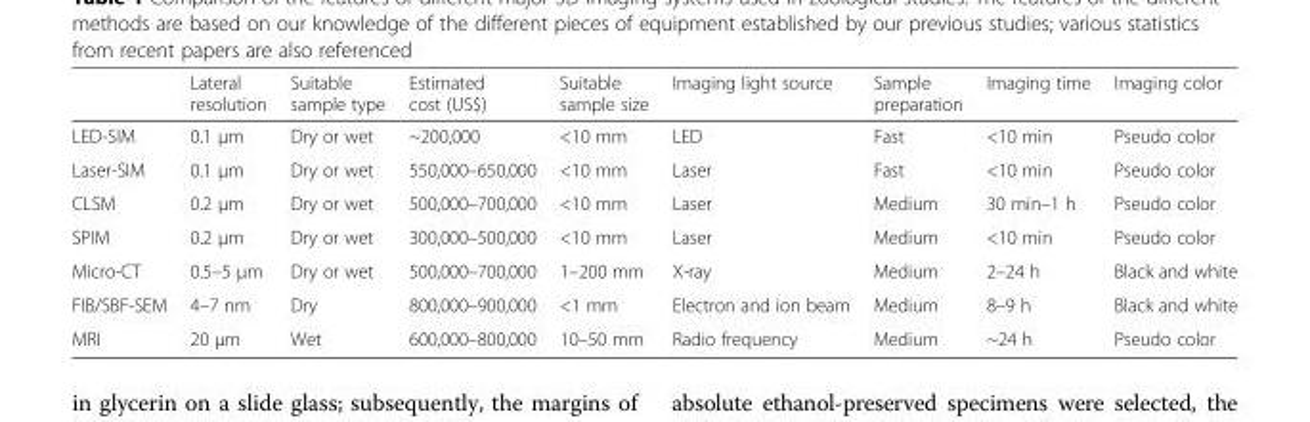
<table><thead><tr><td></td><td>Lateral resolution</td><td>Suitable sample type</td><td>Estimated cost (US$)</td><td>Suitable sample size</td><td>Imaging light source</td><td>Sample preparation</td><td>Imaging time</td><td>Imaging color</td></tr></thead><tbody><tr><td>LED-SIM</td><td>0.1 μm</td><td>Dry or wet</td><td>~200,000</td><td>&lt;10 mm</td><td>LED</td><td>Fast</td><td>&lt;10 min</td><td>Pseudo color</td></tr><tr><td>Laser-SIM</td><td>0.1 μm</td><td>Dry or wet</td><td>550,000–650,000</td><td>&lt;10 mm</td><td>Laser</td><td>Fast</td><td>&lt;10 min</td><td>Pseudo color</td></tr><tr><td>CLSM</td><td>0.2 μm</td><td>Dry or wet</td><td>500,000–700,000</td><td>&lt;10 mm</td><td>Laser</td><td>Medium</td><td>30 min–1 h</td><td>Pseudo color</td></tr><tr><td>SPIM</td><td>0.2 μm</td><td>Dry or wet</td><td>300,000–500,000</td><td>&lt;10 mm</td><td>Laser</td><td>Medium</td><td>&lt;10 min</td><td>Pseudo color</td></tr><tr><td>Micro-CT</td><td>0.5–5 μm</td><td>Dry or wet</td><td>500,000–700,000</td><td>1–200 mm</td><td>X-ray</td><td>Medium</td><td>2–24 h</td><td>Black and white</td></tr><tr><td>FIB/SBF-SEM</td><td>4–7 nm</td><td>Dry</td><td>800,000–900,000</td><td>&lt;1 mm</td><td>Electron and ion beam</td><td>Medium</td><td>8–9 h</td><td>Black and white</td></tr><tr><td>MRI</td><td>20 μm</td><td>Wet</td><td>600,000–800,000</td><td>10–50 mm</td><td>Radio frequency</td><td>Medium</td><td>~24 h</td><td>Pseudo color</td></tr></tbody></table>